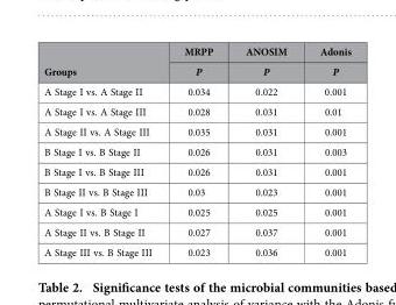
<table><thead><tr><td rowspan="2">Groups</td><td rowspan="2">MRPP P</td><td rowspan="2">ANOSIM P</td><td rowspan="2">Adonis P</td></tr><tr></tr></thead><tbody><tr><td>A Stage I vs. A Stage II</td><td>0.034</td><td>0.022</td><td>0.001</td></tr><tr><td>A Stage I vs. A Stage III</td><td>0.028</td><td>0.031</td><td>0.01</td></tr><tr><td>A Stage II vs. A Stage III</td><td>0.035</td><td>0.031</td><td>0.001</td></tr><tr><td>B Stage I vs. B Stage II</td><td>0.026</td><td>0.031</td><td>0.003</td></tr><tr><td>B Stage I vs. B Stage III</td><td>0.026</td><td>0.031</td><td>0.001</td></tr><tr><td>B Stage II vs. B Stage III</td><td>0.03</td><td>0.023</td><td>0.001</td></tr><tr><td>A Stage I vs. B Stage I</td><td>0.025</td><td>0.025</td><td>0.001</td></tr><tr><td>A Stage II vs. B Stage II</td><td>0.027</td><td>0.037</td><td>0.001</td></tr><tr><td>A Stage III vs. B Stage III</td><td>0.023</td><td>0.036</td><td>0.001</td></tr></tbody></table>